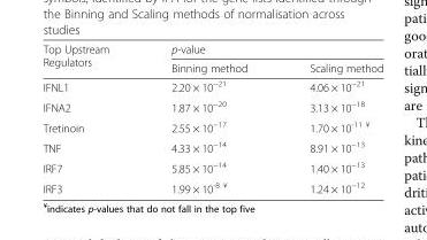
<table><thead><tr><td rowspan="2">Top Upstream Regulators</td><td colspan="2">p-value</td></tr><tr><td>Binning method</td><td>Scaling method</td></tr></thead><tbody><tr><td>IFNL1</td><td>2.20 × 10<sup>−21</sup></td><td>4.06 × 10<sup>−21</sup></td></tr><tr><td>IFNA2</td><td>1.87 × 10<sup>−20</sup></td><td>3.13 × 10<sup>−18</sup></td></tr><tr><td>Tretinoin</td><td>2.55 × 10<sup>−17</sup></td><td>1.70 × 10<sup>-11 ¥</sup></td></tr><tr><td>TNF</td><td>4.33 × 10<sup>−14</sup></td><td>8.91 × 10<sup>−13</sup></td></tr><tr><td>IRF7</td><td>5.85 × 10<sup>−14</sup></td><td>1.40 × 10<sup>−13</sup></td></tr><tr><td>IRF3</td><td>1.99 × 10<sup>-8 ¥</sup></td><td>1.24 × 10<sup>−12</sup></td></tr></tbody></table>